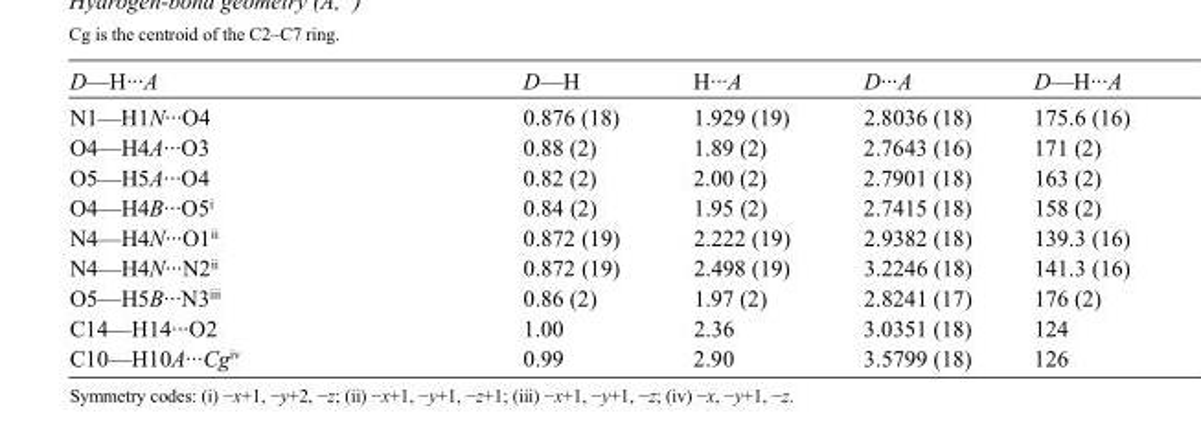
<table><tbody><tr><td>D—H···A</td><td>D—H</td><td>H···A</td><td>D···A</td><td>D—H···A</td></tr><tr><td>N1—H1N···O4</td><td>0.876 (18)</td><td>1.929 (19)</td><td>2.8036 (18)</td><td>175.6 (16)</td></tr><tr><td>O4—H4A···O3</td><td>0.88 (2)</td><td>1.89 (2)</td><td>2.7643 (16)</td><td>171 (2)</td></tr><tr><td>O5—H5A···O4</td><td>0.82 (2)</td><td>2.00 (2)</td><td>2.7901 (18)</td><td>163 (2)</td></tr><tr><td>O4—H4B···O5<sup>i</sup></td><td>0.84 (2)</td><td>1.95 (2)</td><td>2.7415 (18)</td><td>158 (2)</td></tr><tr><td>N4—H4N···O1<sup>ii</sup></td><td>0.872 (19)</td><td>2.222 (19)</td><td>2.9382 (18)</td><td>139.3 (16)</td></tr><tr><td>N4—H4N···N2<sup>ii</sup></td><td>0.872 (19)</td><td>2.498 (19)</td><td>3.2246 (18)</td><td>141.3 (16)</td></tr><tr><td>O5—H5B···N3<sup>iii</sup></td><td>0.86 (2)</td><td>1.97 (2)</td><td>2.8241 (17)</td><td>176 (2)</td></tr><tr><td>C14—H14···O2</td><td>1.00</td><td>2.36</td><td>3.0351 (18)</td><td>124</td></tr><tr><td>C10—H10A···Cg<sup>iv</sup></td><td>0.99</td><td>2.90</td><td>3.5799 (18)</td><td>126</td></tr></tbody></table>